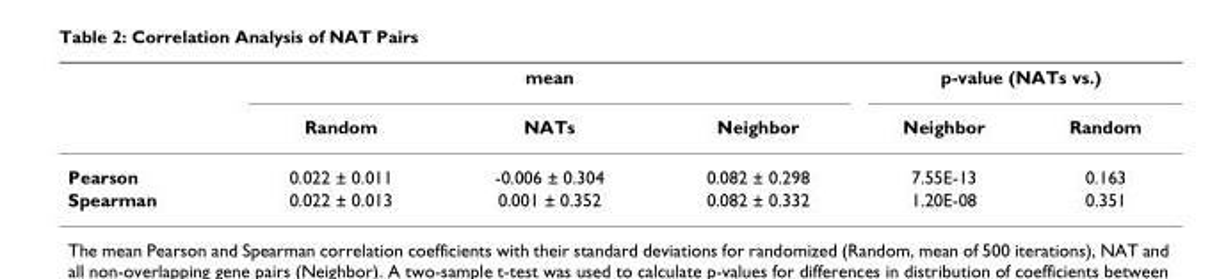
<table><thead><tr><td rowspan="2"></td><td colspan="3">mean</td><td colspan="2">p-value (NATs vs.)</td></tr><tr><td>Random</td><td>NATs</td><td>Neighbor</td><td>Neighbor</td><td>Random</td></tr></thead><tbody><tr><td>Pearson</td><td>0.022 ± 0.011</td><td>-0.006 ± 0.304</td><td>0.082 ± 0.298</td><td>7.55E-13</td><td>0.163</td></tr><tr><td>Spearman</td><td>0.022 ± 0.013</td><td>0.001 ± 0.352</td><td>0.082 ± 0.332</td><td>1.20E-08</td><td>0.351</td></tr></tbody></table>